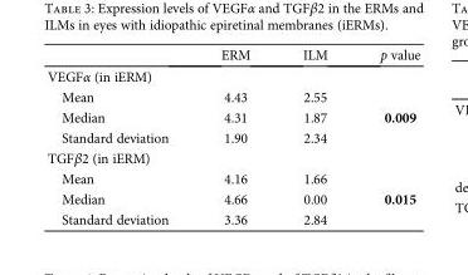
<table><thead><tr><td></td><td>ERM</td><td>ILM</td><td>p value</td></tr></thead><tbody><tr><td colspan="4">VEGFα (in iERM)</td></tr><tr><td>Mean</td><td>4.43</td><td>2.55</td><td rowspan="3">0.009</td></tr><tr><td>Median</td><td>4.31</td><td>1.87</td></tr><tr><td>Standard deviation</td><td>1.90</td><td>2.34</td></tr><tr><td colspan="4">TGFβ2 (in iERM)</td></tr><tr><td>Mean</td><td>4.16</td><td>1.66</td><td rowspan="3">0.015</td></tr><tr><td>Median</td><td>4.66</td><td>0.00</td></tr><tr><td>Standard deviation</td><td>3.36</td><td>2.84</td></tr></tbody></table>